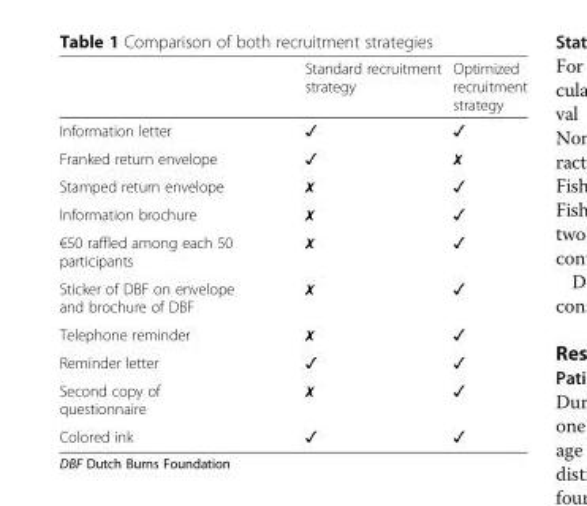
<table><thead><tr><td></td><td>Standard recruitment strategy</td><td>Optimized recruitment strategy</td></tr></thead><tbody><tr><td>Information letter</td><td>✓</td><td>✓</td></tr><tr><td>Franked return envelope</td><td>✓</td><td>✗</td></tr><tr><td>Stamped return envelope</td><td>✗</td><td>✓</td></tr><tr><td>Information brochure</td><td>✗</td><td>✓</td></tr><tr><td>€50 raffled among each 50 participants</td><td>✗</td><td>✓</td></tr><tr><td>Sticker of DBF on envelope and brochure of DBF</td><td>✗</td><td>✓</td></tr><tr><td>Telephone reminder</td><td>✗</td><td>✓</td></tr><tr><td>Reminder letter</td><td>✓</td><td>✓</td></tr><tr><td>Second copy of questionnaire</td><td>✗</td><td>✓</td></tr><tr><td>Colored ink</td><td>✓</td><td>✓</td></tr></tbody></table>